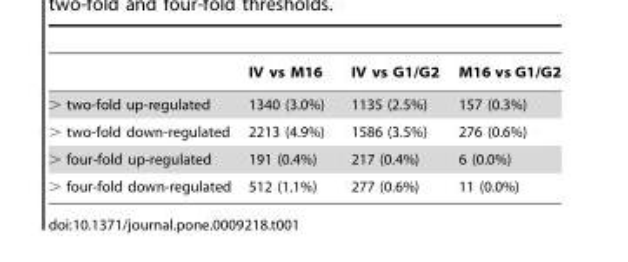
<table><thead><tr><td></td><td>IV vs M16</td><td>IV vs G1/G2</td><td>M16 vs G1/G2</td></tr></thead><tbody><tr><td>two-fold up-regulated</td><td>1340 (3.0%)</td><td>1135 (2.5%)</td><td>157 (0.3%)</td></tr><tr><td>two-fold down-regulated</td><td>2213 (4.9%)</td><td>1586 (3.5%)</td><td>276 (0.6%)</td></tr><tr><td>four-fold up-regulated</td><td>191 (0.4%)</td><td>217 (0.4%)</td><td>6 (0.0%)</td></tr><tr><td>four-fold down-regulated</td><td>512 (1.1%)</td><td>277 (0.6%)</td><td>11 (0.0%)</td></tr></tbody></table>